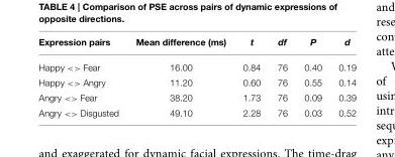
<table><thead><tr><td>Expression pairs</td><td>Mean difference (ms)</td><td>t</td><td>df</td><td>P</td><td>d</td></tr></thead><tbody><tr><td>Happy &lt;&gt; Fear</td><td>16.00</td><td>0.84</td><td>76</td><td>0.40</td><td>0.19</td></tr><tr><td>Happy &lt;&gt; Angry</td><td>11.20</td><td>0.60</td><td>76</td><td>0.55</td><td>0.14</td></tr><tr><td>Angry &lt;&gt; Fear</td><td>38.20</td><td>1.73</td><td>76</td><td>0.09</td><td>0.39</td></tr><tr><td>Angry &lt;&gt; Disgusted</td><td>49.10</td><td>2.28</td><td>76</td><td>0.03</td><td>0.52</td></tr></tbody></table>